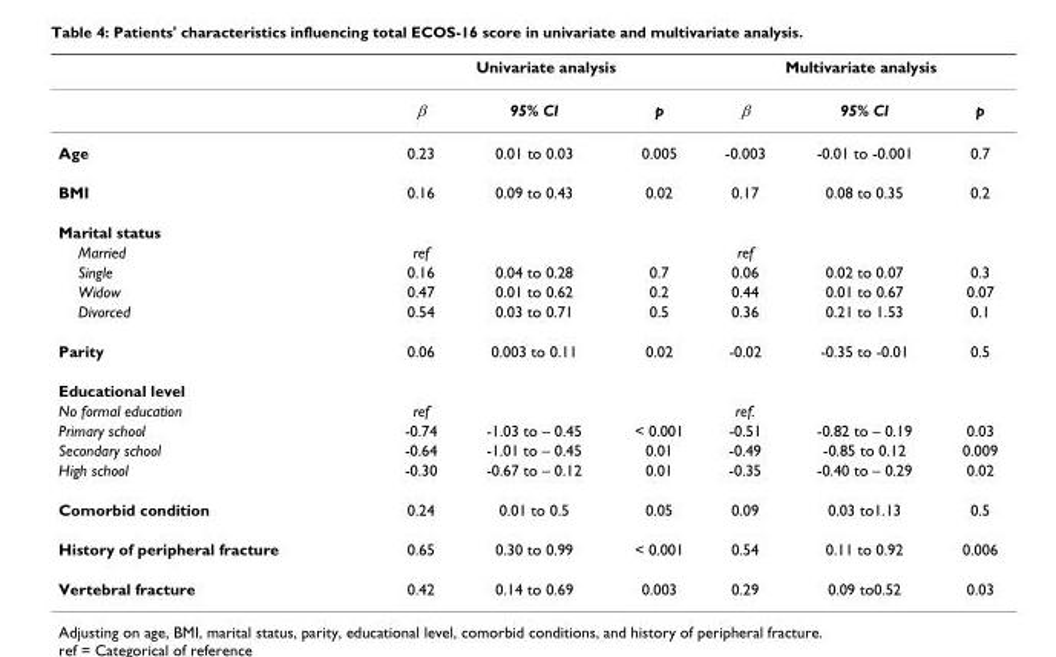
<table><thead><tr><td rowspan="2"></td><td colspan="3">Univariate analysis</td><td colspan="3">Multivariate analysis</td></tr><tr><td>β</td><td>95% CI</td><td>p</td><td>β</td><td>95% CI</td><td>p</td></tr></thead><tbody><tr><td>Age</td><td>0.23</td><td>0.01 to 0.03</td><td>0.005</td><td>-0.003</td><td>-0.01 to -0.001</td><td>0.7</td></tr><tr><td>BMI</td><td>0.16</td><td>0.09 to 0.43</td><td>0.02</td><td>0.17</td><td>0.08 to 0.35</td><td>0.2</td></tr><tr><td colspan="7">Marital status</td></tr><tr><td>Married</td><td>ref</td><td></td><td></td><td>ref</td><td></td><td></td></tr><tr><td>Single</td><td>0.16</td><td>0.04 to 0.28</td><td>0.7</td><td>0.06</td><td>0.02 to 0.07</td><td>0.3</td></tr><tr><td>Widow</td><td>0.47</td><td>0.01 to 0.62</td><td>0.2</td><td>0.44</td><td>0.01 to 0.67</td><td>0.07</td></tr><tr><td>Divorced</td><td>0.54</td><td>0.03 to 0.71</td><td>0.5</td><td>0.36</td><td>0.21 to 1.53</td><td>0.1</td></tr><tr><td>Parity</td><td>0.06</td><td>0.003 to 0.11</td><td>0.02</td><td>-0.02</td><td>-0.35 to -0.01</td><td>0.5</td></tr><tr><td colspan="7">Educational level</td></tr><tr><td>No formal education</td><td>ref</td><td></td><td></td><td>ref.</td><td></td><td></td></tr><tr><td>Primary school</td><td>-0.74</td><td>-1.03 to – 0.45</td><td>&lt; 0.001</td><td>-0.51</td><td>-0.82 to – 0.19</td><td>0.03</td></tr><tr><td>Secondary school</td><td>-0.64</td><td>-1.01 to – 0.45</td><td>0.01</td><td>-0.49</td><td>-0.85 to 0.12</td><td>0.009</td></tr><tr><td>High school</td><td>-0.30</td><td>-0.67 to – 0.12</td><td>0.01</td><td>-0.35</td><td>-0.40 to – 0.29</td><td>0.02</td></tr><tr><td>Comorbid condition</td><td>0.24</td><td>0.01 to 0.5</td><td>0.05</td><td>0.09</td><td>0.03 to1.13</td><td>0.5</td></tr><tr><td>History of peripheral fracture</td><td>0.65</td><td>0.30 to 0.99</td><td>&lt; 0.001</td><td>0.54</td><td>0.11 to 0.92</td><td>0.006</td></tr><tr><td>Vertebral fracture</td><td>0.42</td><td>0.14 to 0.69</td><td>0.003</td><td>0.29</td><td>0.09 to0.52</td><td>0.03</td></tr></tbody></table>